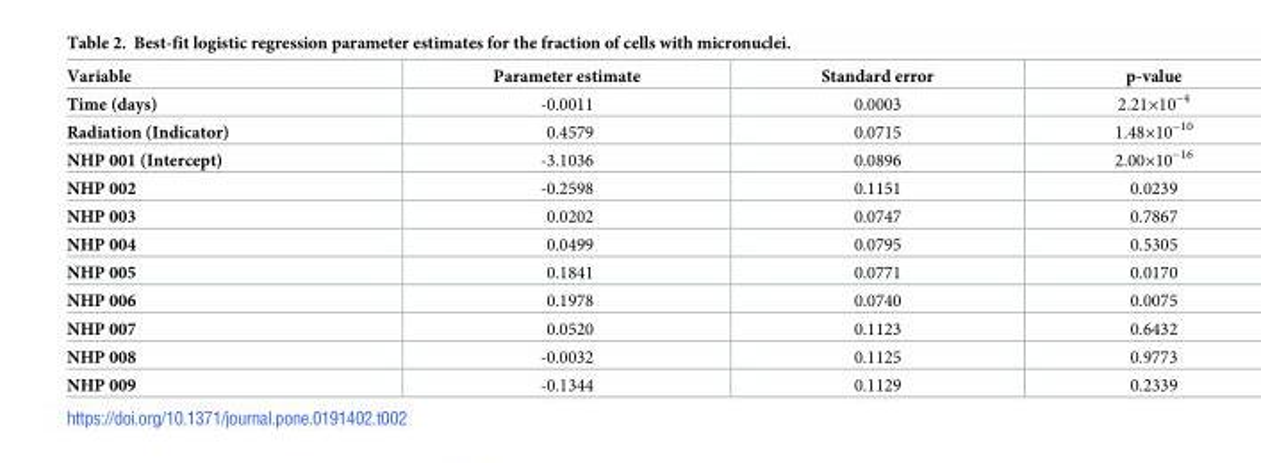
<table><thead><tr><td>Variable</td><td>Parameter estimate</td><td>Standard error</td><td>p-value</td></tr></thead><tbody><tr><td>Time (days)</td><td>-0.0011</td><td>0.0003</td><td>2.21×10<sup>−4</sup></td></tr><tr><td>Radiation (Indicator)</td><td>0.4579</td><td>0.0715</td><td>1.48×10<sup>−10</sup></td></tr><tr><td>NHP 001 (Intercept)</td><td>-3.1036</td><td>0.0896</td><td>2.00×10<sup>−16</sup></td></tr><tr><td>NHP 002</td><td>-0.2598</td><td>0.1151</td><td>0.0239</td></tr><tr><td>NHP 003</td><td>0.0202</td><td>0.0747</td><td>0.7867</td></tr><tr><td>NHP 004</td><td>0.0499</td><td>0.0795</td><td>0.5305</td></tr><tr><td>NHP 005</td><td>0.1841</td><td>0.0771</td><td>0.0170</td></tr><tr><td>NHP 006</td><td>0.1978</td><td>0.0740</td><td>0.0075</td></tr><tr><td>NHP 007</td><td>0.0520</td><td>0.1123</td><td>0.6432</td></tr><tr><td>NHP 008</td><td>-0.0032</td><td>0.1125</td><td>0.9773</td></tr><tr><td>NHP 009</td><td>-0.1344</td><td>0.1129</td><td>0.2339</td></tr></tbody></table>